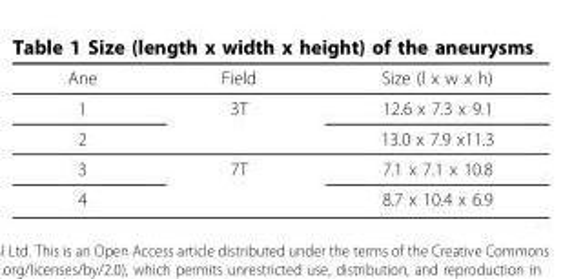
<table><thead><tr><td>Ane</td><td>Field</td><td>Size (l x w x h)</td></tr></thead><tbody><tr><td>1</td><td>3T</td><td>12.6 x 7.3 x 9.1</td></tr><tr><td>2</td><td></td><td>13.0 x 7.9 x11.3</td></tr><tr><td>3</td><td>7T</td><td>7.1 x 7.1 x 10.8</td></tr><tr><td>4</td><td></td><td>8.7 x 10.4 x 6.9</td></tr></tbody></table>